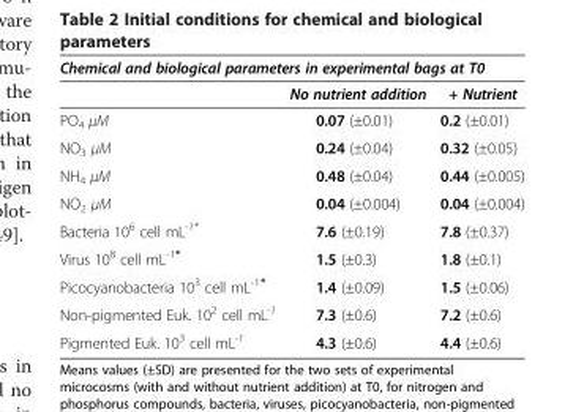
<table><thead><tr><td colspan="3">Chemical and biological parameters in experimental bags at T0</td></tr><tr><td></td><td>No nutrient addition</td><td>+ Nutrient</td></tr></thead><tbody><tr><td>PO<sub>4</sub> μM</td><td>0.07 (±0.01)</td><td>0.2 (±0.01)</td></tr><tr><td>NO<sub>3</sub> μM</td><td>0.24 (±0.04)</td><td>0.32 (±0.05)</td></tr><tr><td>NH<sub>4</sub> μM</td><td>0.48 (±0.04)</td><td>0.44 (±0.005)</td></tr><tr><td>NO<sub>2</sub> μM</td><td>0.04 (±0.004)</td><td>0.04 (±0.004)</td></tr><tr><td>Bacteria 10<sup>6</sup> cell mL<sup>-1*</sup></td><td>7.6 (±0.19)</td><td>7.8 (±0.37)</td></tr><tr><td>Virus 10<sup>8</sup> cell mL<sup>-1*</sup></td><td>1.5 (±0.3)</td><td>1.8 (±0.1)</td></tr><tr><td>Picocyanobacteria 10<sup>3</sup> cell mL<sup>-1*</sup></td><td>1.4 (±0.09)</td><td>1.5 (±0.06)</td></tr><tr><td>Non-pigmented Euk. 10<sup>2</sup> cell mL<sup>-1</sup></td><td>7.3 (±0.6)</td><td>7.2 (±0.6)</td></tr><tr><td>Pigmented Euk. 10<sup>3</sup> cell mL<sup>-1</sup></td><td>4.3 (±0.6)</td><td>4.4 (±0.6)</td></tr></tbody></table>